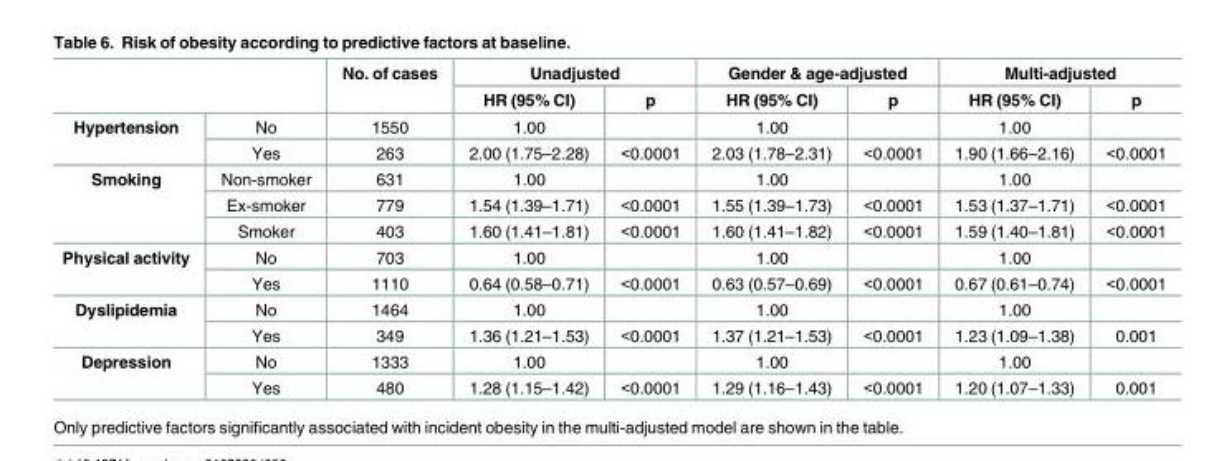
<table><thead><tr><td rowspan="2"></td><td rowspan="2"></td><td rowspan="2">No. of cases</td><td colspan="2">Unadjusted</td><td colspan="2">Gender &amp; age-adjusted</td><td colspan="2">Multi-adjusted</td></tr><tr><td>HR (95% CI)</td><td>p</td><td>HR (95% CI)</td><td>p</td><td>HR (95% CI)</td><td>p</td></tr></thead><tbody><tr><td rowspan="2">Hypertension</td><td>No</td><td>1550</td><td>1.00</td><td></td><td>1.00</td><td></td><td>1.00</td><td></td></tr><tr><td>Yes</td><td>263</td><td>2.00 (1.75–2.28)</td><td>&lt;0.0001</td><td>2.03 (1.78–2.31)</td><td>&lt;0.0001</td><td>1.90 (1.66–2.16)</td><td>&lt;0.0001</td></tr><tr><td rowspan="3">Smoking</td><td>Non-smoker</td><td>631</td><td>1.00</td><td></td><td>1.00</td><td></td><td>1.00</td><td></td></tr><tr><td>Ex-smoker</td><td>779</td><td>1.54 (1.39–1.71)</td><td>&lt;0.0001</td><td>1.55 (1.39–1.73)</td><td>&lt;0.0001</td><td>1.53 (1.37–1.71)</td><td>&lt;0.0001</td></tr><tr><td>Smoker</td><td>403</td><td>1.60 (1.41–1.81)</td><td>&lt;0.0001</td><td>1.60 (1.41–1.82)</td><td>&lt;0.0001</td><td>1.59 (1.40–1.81)</td><td>&lt;0.0001</td></tr><tr><td rowspan="2">Physical activity</td><td>No</td><td>703</td><td>1.00</td><td></td><td>1.00</td><td></td><td>1.00</td><td></td></tr><tr><td>Yes</td><td>1110</td><td>0.64 (0.58–0.71)</td><td>&lt;0.0001</td><td>0.63 (0.57–0.69)</td><td>&lt;0.0001</td><td>0.67 (0.61–0.74)</td><td>&lt;0.0001</td></tr><tr><td rowspan="2">Dyslipidemia</td><td>No</td><td>1464</td><td>1.00</td><td></td><td>1.00</td><td></td><td>1.00</td><td></td></tr><tr><td>Yes</td><td>349</td><td>1.36 (1.21–1.53)</td><td>&lt;0.0001</td><td>1.37 (1.21–1.53)</td><td>&lt;0.0001</td><td>1.23 (1.09–1.38)</td><td>0.001</td></tr><tr><td rowspan="2">Depression</td><td>No</td><td>1333</td><td>1.00</td><td></td><td>1.00</td><td></td><td>1.00</td><td></td></tr><tr><td>Yes</td><td>480</td><td>1.28 (1.15–1.42)</td><td>&lt;0.0001</td><td>1.29 (1.16–1.43)</td><td>&lt;0.0001</td><td>1.20 (1.07–1.33)</td><td>0.001</td></tr></tbody></table>